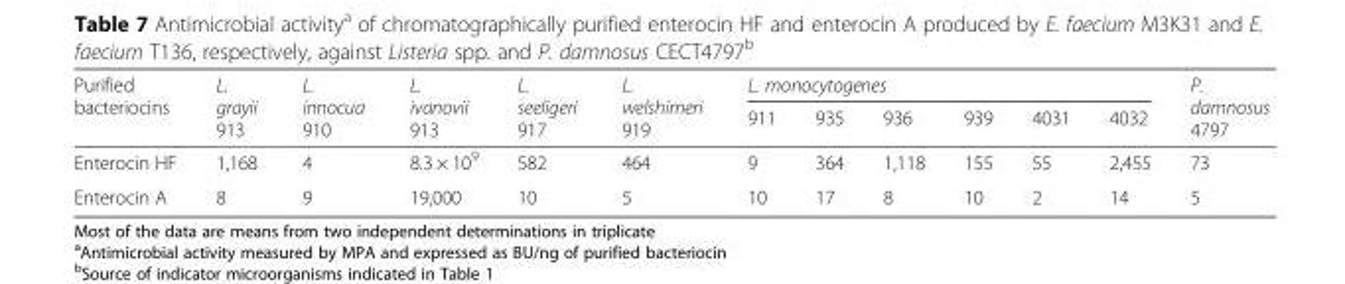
<table><thead><tr><td rowspan="2">Purified bacteriocins</td><td rowspan="2">L. grayii 913</td><td rowspan="2">L. innocua 910</td><td rowspan="2">L. ivanovii 913</td><td rowspan="2">L. seeligeri 917</td><td rowspan="2">L. welshimeri 919</td><td colspan="6">L. monocytogenes</td><td rowspan="2">P. damnosus 4797</td></tr><tr><td>911</td><td>935</td><td>936</td><td>939</td><td>4031</td><td>4032</td></tr></thead><tbody><tr><td>Enterocin HF</td><td>1,168</td><td>4</td><td>8.3 × 10<sup>9</sup></td><td>582</td><td>464</td><td>9</td><td>364</td><td>1,118</td><td>155</td><td>55</td><td>2,455</td><td>73</td></tr><tr><td>Enterocin A</td><td>8</td><td>9</td><td>19,000</td><td>10</td><td>5</td><td>10</td><td>17</td><td>8</td><td>10</td><td>2</td><td>14</td><td>5</td></tr></tbody></table>